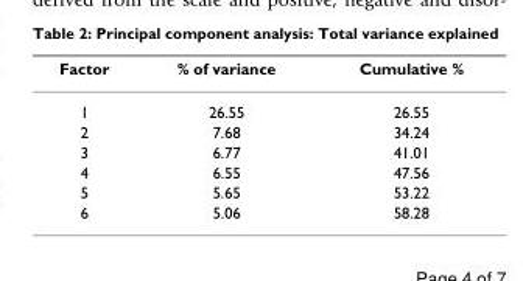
<table><thead><tr><td>Factor</td><td>% of variance</td><td>Cumulative %</td></tr></thead><tbody><tr><td>1</td><td>26.55</td><td>26.55</td></tr><tr><td>2</td><td>7.68</td><td>34.24</td></tr><tr><td>3</td><td>6.77</td><td>41.01</td></tr><tr><td>4</td><td>6.55</td><td>47.56</td></tr><tr><td>5</td><td>5.65</td><td>53.22</td></tr><tr><td>6</td><td>5.06</td><td>58.28</td></tr></tbody></table>